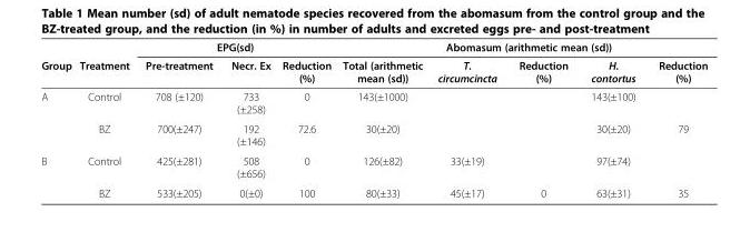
<table><thead><tr><td rowspan="2">Group</td><td rowspan="2">Treatment</td><td colspan="3">EPG(sd)</td><td colspan="5">Abomasum (arithmetic mean (sd))</td></tr><tr><td>Pre-treatment</td><td>Necr. Ex</td><td>Reduction (%)</td><td>Total (arithmetic mean (sd))</td><td>T. circumcincta</td><td>Reduction (%)</td><td>H. contortus</td><td>Reduction (%)</td></tr></thead><tbody><tr><td rowspan="2">A</td><td>Control</td><td>708 (±120)</td><td>733 (±258)</td><td>0</td><td>143(±1000)</td><td></td><td></td><td>143(±100)</td><td></td></tr><tr><td>BZ</td><td>700(±247)</td><td>192 (±146)</td><td>72.6</td><td>30(±20)</td><td></td><td></td><td>30(±20)</td><td>79</td></tr><tr><td rowspan="2">B</td><td>Control</td><td>425(±281)</td><td>508 (±656)</td><td>0</td><td>126(±82)</td><td>33(±19)</td><td></td><td>97(±74)</td><td></td></tr><tr><td>BZ</td><td>533(±205)</td><td>0(±0)</td><td>100</td><td>80(±33)</td><td>45(±17)</td><td>0</td><td>63(±31)</td><td>35</td></tr></tbody></table>